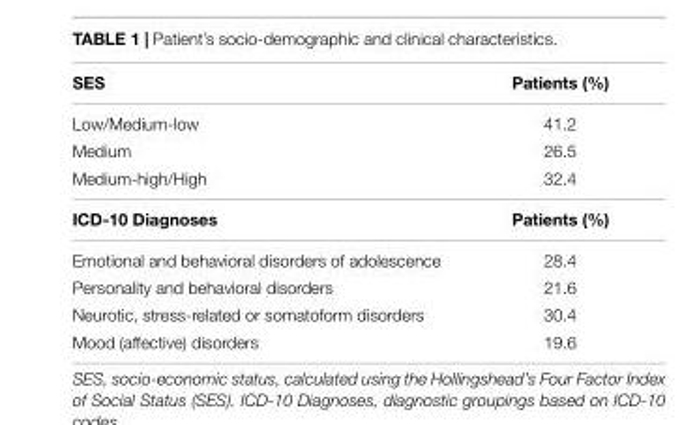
<table><thead><tr><td>SES</td><td>Patients (%)</td></tr></thead><tbody><tr><td>Low/Medium-low</td><td>41.2</td></tr><tr><td>Medium</td><td>26.5</td></tr><tr><td>Medium-high/High</td><td>32.4</td></tr><tr><td>ICD-10 Diagnoses</td><td>Patients (%)</td></tr><tr><td>Emotional and behavioral disorders of adolescence</td><td>28.4</td></tr><tr><td>Personality and behavioral disorders</td><td>21.6</td></tr><tr><td>Neurotic, stress-related or somatoform disorders</td><td>30.4</td></tr><tr><td>Mood (affective) disorders</td><td>19.6</td></tr></tbody></table>